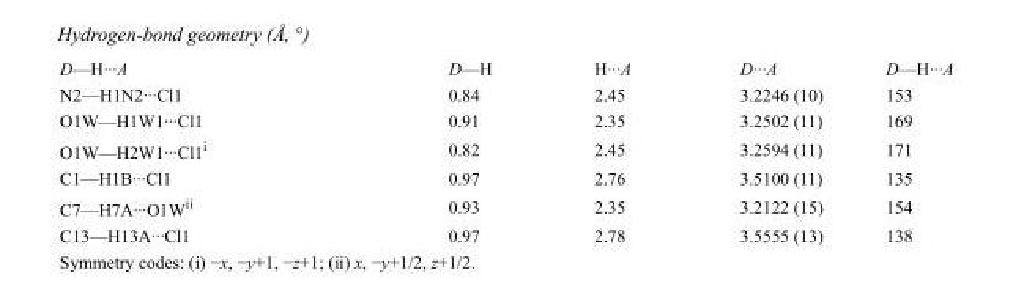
<table><tbody><tr><td>D—H···A</td><td>D—H</td><td>H···A</td><td>D···A</td><td>D—H···A</td></tr><tr><td>N2—H1N2···Cl1</td><td>0.84</td><td>2.45</td><td>3.2246 (10)</td><td>153</td></tr><tr><td>O1W—H1W1···Cl1</td><td>0.91</td><td>2.35</td><td>3.2502 (11)</td><td>169</td></tr><tr><td>O1W—H2W1···Cl1<sup>i</sup></td><td>0.82</td><td>2.45</td><td>3.2594 (11)</td><td>171</td></tr><tr><td>C1—H1B···Cl1</td><td>0.97</td><td>2.76</td><td>3.5100 (11)</td><td>135</td></tr><tr><td>C7—H7A···O1W<sup>ii</sup></td><td>0.93</td><td>2.35</td><td>3.2122 (15)</td><td>154</td></tr><tr><td>C13—H13A···Cl1</td><td>0.97</td><td>2.78</td><td>3.5555 (13)</td><td>138</td></tr></tbody></table>